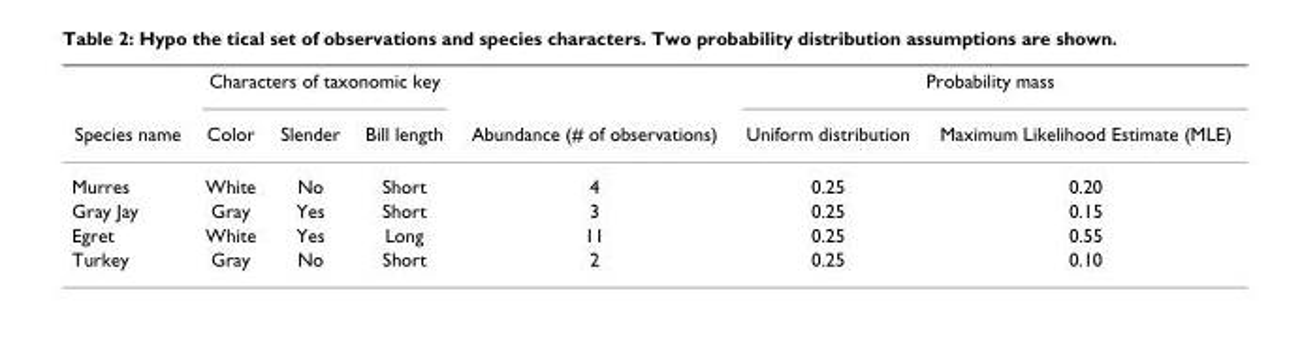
<table><thead><tr><td rowspan="2">Species name</td><td colspan="3">Characters of taxonomic key</td><td rowspan="2">Abundance (# of observations)</td><td colspan="2">Probability mass</td></tr><tr><td>Color</td><td>Slender</td><td>Bill length</td><td>Uniform distribution</td><td>Maximum Likelihood Estimate (MLE)</td></tr></thead><tbody><tr><td>Murres</td><td>White</td><td>No</td><td>Short</td><td>4</td><td>0.25</td><td>0.20</td></tr><tr><td>Gray Jay</td><td>Gray</td><td>Yes</td><td>Short</td><td>3</td><td>0.25</td><td>0.15</td></tr><tr><td>Egret</td><td>White</td><td>Yes</td><td>Long</td><td>11</td><td>0.25</td><td>0.55</td></tr><tr><td>Turkey</td><td>Gray</td><td>No</td><td>Short</td><td>2</td><td>0.25</td><td>0.10</td></tr></tbody></table>